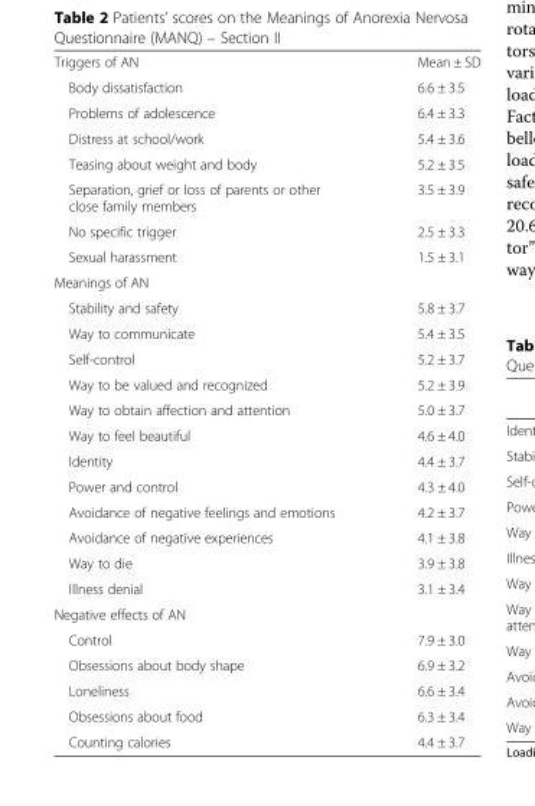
<table><tbody><tr><td>Triggers of AN</td><td>Mean ± SD</td></tr><tr><td>Body dissatisfaction</td><td>6.6 ± 3.5</td></tr><tr><td>Problems of adolescence</td><td>6.4 ± 3.3</td></tr><tr><td>Distress at school/work</td><td>5.4 ± 3.6</td></tr><tr><td>Teasing about weight and body</td><td>5.2 ± 3.5</td></tr><tr><td>Separation, grief or loss of parents or other close family members</td><td>3.5 ± 3.9</td></tr><tr><td>No specific trigger</td><td>2.5 ± 3.3</td></tr><tr><td>Sexual harassment</td><td>1.5 ± 3.1</td></tr><tr><td colspan="2">Meanings of AN</td></tr><tr><td>Stability and safety</td><td>5.8 ± 3.7</td></tr><tr><td>Way to communicate</td><td>5.4 ± 3.5</td></tr><tr><td>Self-control</td><td>5.2 ± 3.7</td></tr><tr><td>Way to be valued and recognized</td><td>5.2 ± 3.9</td></tr><tr><td>Way to obtain affection and attention</td><td>5.0 ± 3.7</td></tr><tr><td>Way to feel beautiful</td><td>4.6 ± 4.0</td></tr><tr><td>Identity</td><td>4.4 ± 3.7</td></tr><tr><td>Power and control</td><td>4.3 ± 4.0</td></tr><tr><td>Avoidance of negative feelings and emotions</td><td>4.2 ± 3.7</td></tr><tr><td>Avoidance of negative experiences</td><td>4.1 ± 3.8</td></tr><tr><td>Way to die</td><td>3.9 ± 3.8</td></tr><tr><td>Illness denial</td><td>3.1 ± 3.4</td></tr><tr><td colspan="2">Negative effects of AN</td></tr><tr><td>Control</td><td>7.9 ± 3.0</td></tr><tr><td>Obsessions about body shape</td><td>6.9 ± 3.2</td></tr><tr><td>Loneliness</td><td>6.6 ± 3.4</td></tr><tr><td>Obsessions about food</td><td>6.3 ± 3.4</td></tr><tr><td>Counting calories</td><td>4.4 ± 3.7</td></tr></tbody></table>